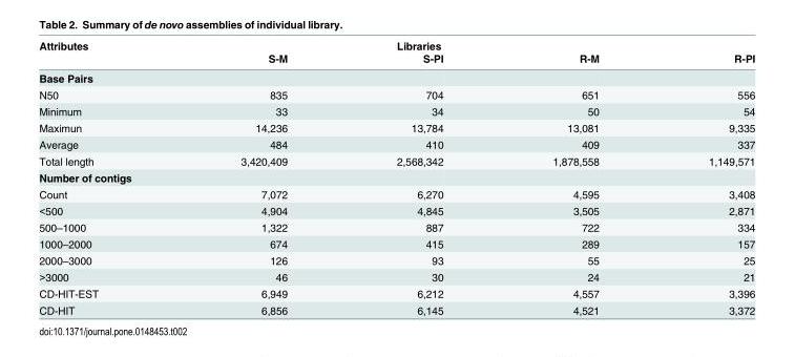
<table><thead><tr><td rowspan="2">Attributes</td><td rowspan="2">S-M</td><td rowspan="2">Libraries S-PI</td><td rowspan="2">R-M</td><td rowspan="2">R-PI</td></tr><tr></tr></thead><tbody><tr><td colspan="5">Base Pairs</td></tr><tr><td>N50</td><td>835</td><td>704</td><td>651</td><td>556</td></tr><tr><td>Minimum</td><td>33</td><td>34</td><td>50</td><td>54</td></tr><tr><td>Maximun</td><td>14,236</td><td>13,784</td><td>13,081</td><td>9,335</td></tr><tr><td>Average</td><td>484</td><td>410</td><td>409</td><td>337</td></tr><tr><td>Total length</td><td>3,420,409</td><td>2,568,342</td><td>1,878,558</td><td>1,149,571</td></tr><tr><td colspan="5">Number of contigs</td></tr><tr><td>Count</td><td>7,072</td><td>6,270</td><td>4,595</td><td>3,408</td></tr><tr><td>&lt;500</td><td>4,904</td><td>4,845</td><td>3,505</td><td>2,871</td></tr><tr><td>500–1000</td><td>1,322</td><td>887</td><td>722</td><td>334</td></tr><tr><td>1000–2000</td><td>674</td><td>415</td><td>289</td><td>157</td></tr><tr><td>2000–3000</td><td>126</td><td>93</td><td>55</td><td>25</td></tr><tr><td>&gt;3000</td><td>46</td><td>30</td><td>24</td><td>21</td></tr><tr><td>CD-HIT-EST</td><td>6,949</td><td>6,212</td><td>4,557</td><td>3,396</td></tr><tr><td>CD-HIT</td><td>6,856</td><td>6,145</td><td>4,521</td><td>3,372</td></tr></tbody></table>